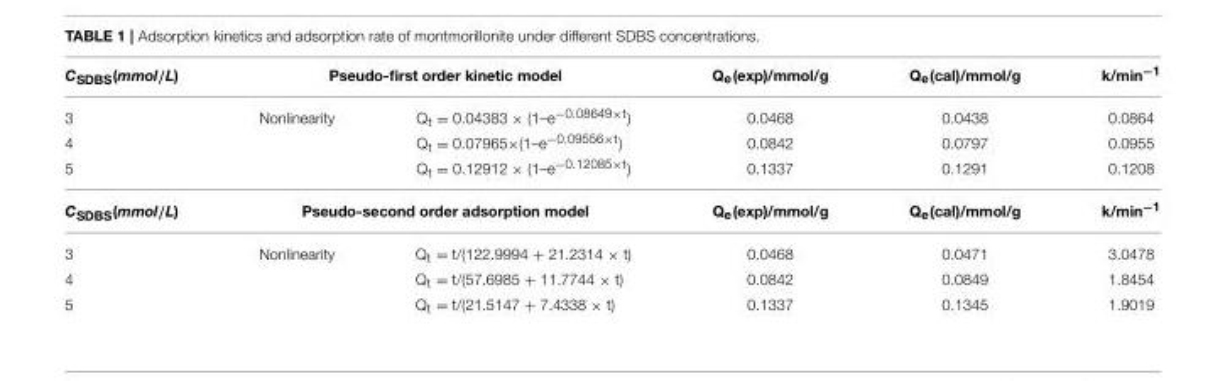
<table><thead><tr><td rowspan="2">C<sub>SDBS</sub>(mmol/L) 3</td><td colspan="2">Pseudo-first order kinetic model</td><td rowspan="2">Qe(exp)/mmol/g 0.0468</td><td rowspan="2">Qe(cal)/mmol/g 0.0438</td><td rowspan="2">k/min−1 0.0864</td></tr><tr><td>Nonlinearity</td><td>Q<sub>t</sub> = 0.04383 × (1–e<sup>−0.08649×t</sup>)</td></tr></thead><tbody><tr><td>4</td><td></td><td>Q<sub>t</sub> = 0.07965×(1–e<sup>−0.09556×t</sup>)</td><td>0.0842</td><td>0.0797</td><td>0.0955</td></tr><tr><td>5</td><td></td><td>Q<sub>t</sub> = 0.12912 × (1–e<sup>−0.12085×t</sup>)</td><td>0.1337</td><td>0.1291</td><td>0.1208</td></tr><tr><td>C<sub>SDBS</sub>(mmol/L)</td><td colspan="2">Pseudo-second order adsorption model</td><td>Qe(exp)/mmol/g</td><td>Qe(cal)/mmol/g</td><td>k/min−1</td></tr><tr><td>3</td><td>Nonlinearity</td><td>Q<sub>t</sub> = t/(122.9994 + 21.2314 × t)</td><td>0.0468</td><td>0.0471</td><td>3.0478</td></tr><tr><td>4</td><td></td><td>Q<sub>t</sub> = t/(57.6985 + 11.7744 × t)</td><td>0.0842</td><td>0.0849</td><td>1.8454</td></tr><tr><td>5</td><td></td><td>Q<sub>t</sub> = t/(21.5147 + 7.4338 × t)</td><td>0.1337</td><td>0.1345</td><td>1.9019</td></tr></tbody></table>